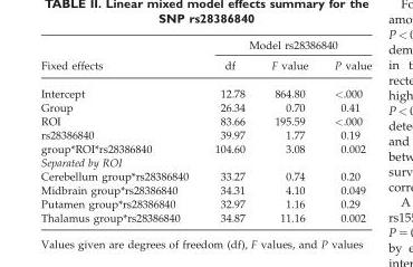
<table><thead><tr><td rowspan="2">Fixed effects</td><td colspan="3">Model rs28386840</td></tr><tr><td>df</td><td>F value</td><td>P value</td></tr></thead><tbody><tr><td>Intercept</td><td>12.78</td><td>864.80</td><td>&lt;.000</td></tr><tr><td>Group</td><td>26.34</td><td>0.70</td><td>0.41</td></tr><tr><td>ROI</td><td>83.66</td><td>195.59</td><td>&lt;.000</td></tr><tr><td>rs28386840</td><td>39.97</td><td>1.77</td><td>0.19</td></tr><tr><td>group*ROI*rs28386840</td><td>104.60</td><td>3.08</td><td>0.002</td></tr><tr><td colspan="4">Separated by ROI</td></tr><tr><td>Cerebellum group*rs28386840</td><td>33.27</td><td>0.74</td><td>0.20</td></tr><tr><td>Midbrain group*rs28386840</td><td>34.31</td><td>4.10</td><td>0.049</td></tr><tr><td>Putamen group*rs28386840</td><td>32.97</td><td>1.16</td><td>0.29</td></tr><tr><td>Thalamus group*rs28386840</td><td>34.87</td><td>11.16</td><td>0.002</td></tr></tbody></table>